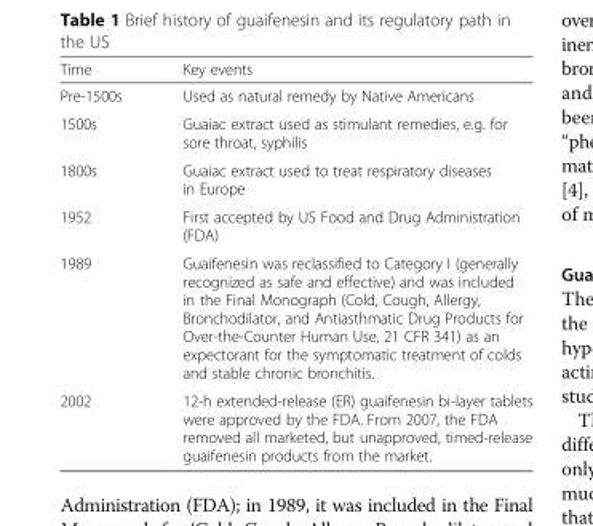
<table><thead><tr><td>Time</td><td>Key events</td></tr></thead><tbody><tr><td>Pre-1500s</td><td>Used as natural remedy by Native Americans</td></tr><tr><td>1500s</td><td>Guaiac extract used as stimulant remedies, e.g. for sore throat, syphilis</td></tr><tr><td>1800s</td><td>Guaiac extract used to treat respiratory diseases in Europe</td></tr><tr><td>1952</td><td>First accepted by US Food and Drug Administration (FDA)</td></tr><tr><td>1989</td><td>Guaifenesin was reclassified to Category I (generally recognized as safe and effective) and was included in the Final Monograph (Cold, Cough, Allergy, Bronchodilator, and Antiasthmatic Drug Products for Over-the-Counter Human Use, 21 CFR 341) as an expectorant for the symptomatic treatment of colds and stable chronic bronchitis.</td></tr><tr><td>2002</td><td>12-h extended-release (ER) guaifenesin bi-layer tablets were approved by the FDA. From 2007, the FDA removed all marketed, but unapproved, timed-release guaifenesin products from the market.</td></tr></tbody></table>